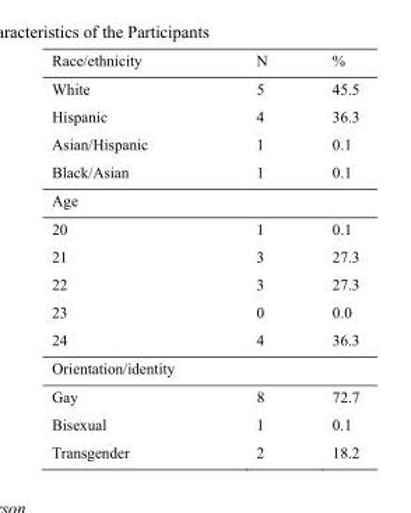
<table><thead><tr><td>Race/ethnicity</td><td>N</td><td>%</td></tr></thead><tbody><tr><td>White</td><td>5</td><td>45.5</td></tr><tr><td>Hispanic</td><td>4</td><td>36.3</td></tr><tr><td>Asian/Hispanic</td><td>1</td><td>0.1</td></tr><tr><td>Black/Asian</td><td>1</td><td>0.1</td></tr><tr><td colspan="3">Age</td></tr><tr><td>20</td><td>1</td><td>0.1</td></tr><tr><td>21</td><td>3</td><td>27.3</td></tr><tr><td>22</td><td>3</td><td>27.3</td></tr><tr><td>23</td><td>0</td><td>0.0</td></tr><tr><td>24</td><td>4</td><td>36.3</td></tr><tr><td colspan="3">Orientation/identity</td></tr><tr><td>Gay</td><td>8</td><td>72.7</td></tr><tr><td>Bisexual</td><td>1</td><td>0.1</td></tr><tr><td>Transgender</td><td>2</td><td>18.2</td></tr></tbody></table>